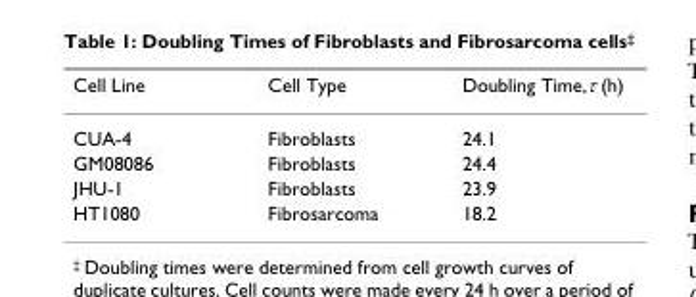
<table><thead><tr><td>Cell Line</td><td>Cell Type</td><td>Doubling Time,τ (h)</td></tr></thead><tbody><tr><td>CUA-4</td><td>Fibroblasts</td><td>24.1</td></tr><tr><td>GM08086</td><td>Fibroblasts</td><td>24.4</td></tr><tr><td>JHU-1</td><td>Fibroblasts</td><td>23.9</td></tr><tr><td>HT1080</td><td>Fibrosarcoma</td><td>18.2</td></tr></tbody></table>